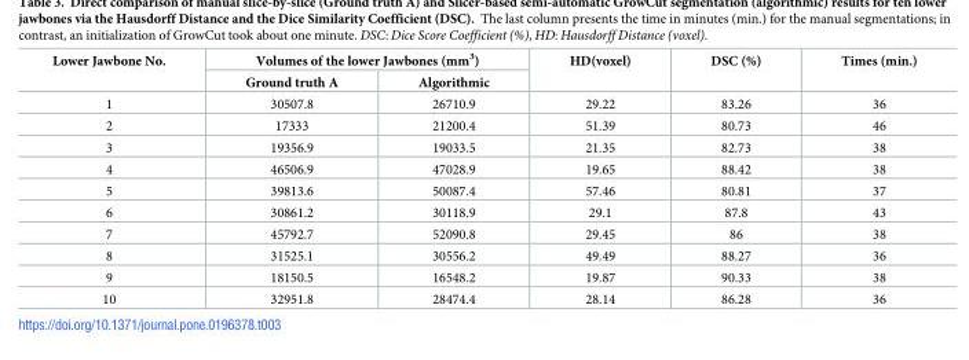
<table><thead><tr><td rowspan="2">Lower Jawbone No.</td><td colspan="2">Volumes of the lower Jawbones (mm<sup>3</sup>)</td><td rowspan="2">HD(voxel)</td><td rowspan="2">DSC (%)</td><td rowspan="2">Times (min.)</td></tr><tr><td>Ground truth A</td><td>Algorithmic</td></tr></thead><tbody><tr><td>1</td><td>30507.8</td><td>26710.9</td><td>29.22</td><td>83.26</td><td>36</td></tr><tr><td>2</td><td>17333</td><td>21200.4</td><td>51.39</td><td>80.73</td><td>46</td></tr><tr><td>3</td><td>19356.9</td><td>19033.5</td><td>21.35</td><td>82.73</td><td>38</td></tr><tr><td>4</td><td>46506.9</td><td>47028.9</td><td>19.65</td><td>88.42</td><td>38</td></tr><tr><td>5</td><td>39813.6</td><td>50087.4</td><td>57.46</td><td>80.81</td><td>37</td></tr><tr><td>6</td><td>30861.2</td><td>30118.9</td><td>29.1</td><td>87.8</td><td>43</td></tr><tr><td>7</td><td>45792.7</td><td>52090.8</td><td>29.45</td><td>86</td><td>38</td></tr><tr><td>8</td><td>31525.1</td><td>30556.2</td><td>49.49</td><td>88.27</td><td>36</td></tr><tr><td>9</td><td>18150.5</td><td>16548.2</td><td>19.87</td><td>90.33</td><td>38</td></tr><tr><td>10</td><td>32951.8</td><td>28474.4</td><td>28.14</td><td>86.28</td><td>36</td></tr></tbody></table>